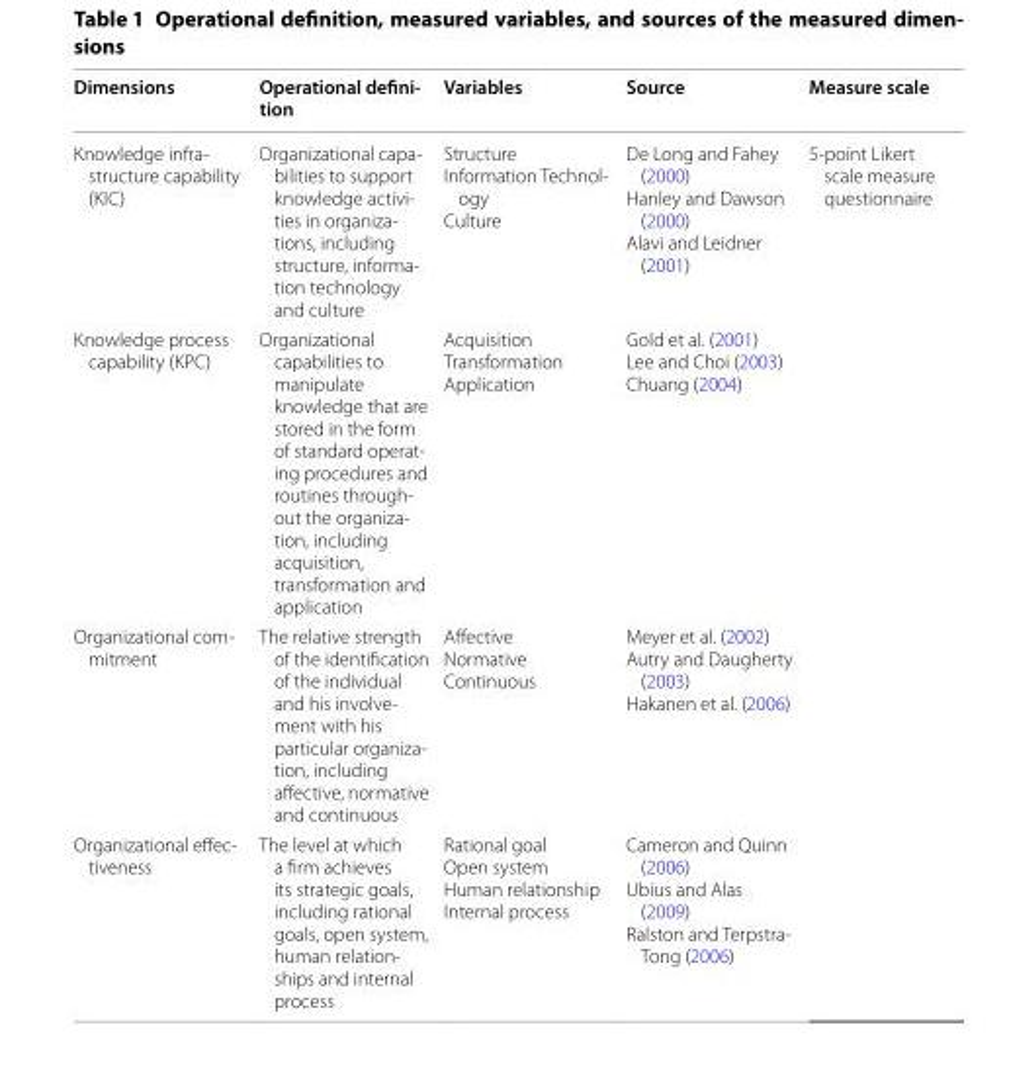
<table><thead><tr><td>Dimensions</td><td>Operational defini- tion</td><td>Variables</td><td>Source</td><td>Measure scale</td></tr></thead><tbody><tr><td>Knowledge infra‑ structure capability (KIC)</td><td>Organizational capa‑ bilities to support knowledge activi‑ ties in organiza‑ tions, including structure, informa‑ tion technology and culture</td><td>Structure Information Technol‑ ogy Culture</td><td>De Long and Fahey (2000) Hanley and Dawson (2000) Alavi and Leidner (2001)</td><td rowspan="4">5‑point Likert scale measure questionnaire</td></tr><tr><td>Knowledge process capability (KPC)</td><td>Organizational capabilities to manipulate knowledge that are stored in the form of standard operat‑ ing procedures and routines through‑ out the organiza‑ tion, including acquisition, transformation and application</td><td>Acquisition Transformation Application</td><td>Gold et al. (2001) Lee and Choi (2003) Chuang (2004)</td></tr><tr><td>Organizational com‑ mitment</td><td>The relative strength of the identification of the individual and his involve‑ ment with his particular organiza‑ tion, including affective, normative and continuous</td><td>Affective Normative Continuous</td><td>Meyer et al. (2002) Autry and Daugherty (2003) Hakanen et al. (2006)</td></tr><tr><td>Organizational effec‑ tiveness</td><td>The level at which a firm achieves its strategic goals, including rational goals, open system, human relation‑ ships and internal process</td><td>Rational goal Open system Human relationship Internal process</td><td>Cameron and Quinn (2006) Ubius and Alas (2009) Ralston and Terpstra‑ Tong (2006)</td></tr></tbody></table>